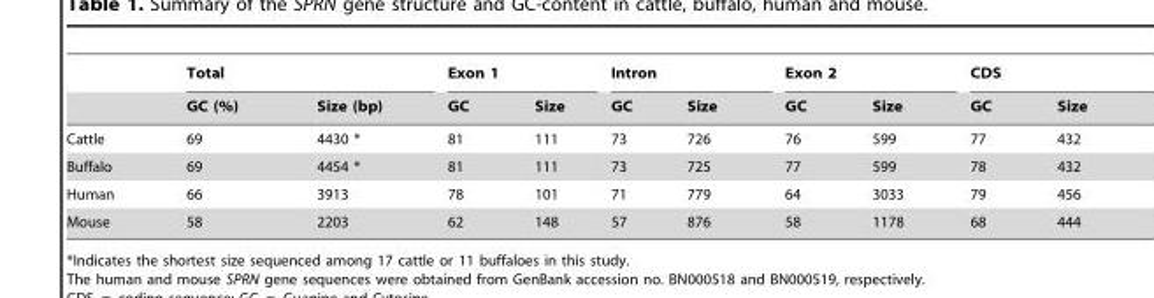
<table><thead><tr><td rowspan="2"></td><td colspan="2">Total</td><td colspan="2">Exon 1</td><td colspan="2">Intron</td><td colspan="2">Exon 2</td><td colspan="2">CDS</td></tr><tr><td>GC (%)</td><td>Size (bp)</td><td>GC</td><td>Size</td><td>GC</td><td>Size</td><td>GC</td><td>Size</td><td>GC</td><td>Size</td></tr></thead><tbody><tr><td>Cattle</td><td>69</td><td>4430 *</td><td>81</td><td>111</td><td>73</td><td>726</td><td>76</td><td>599</td><td>77</td><td>432</td></tr><tr><td>Buffalo</td><td>69</td><td>4454 *</td><td>81</td><td>111</td><td>73</td><td>725</td><td>77</td><td>599</td><td>78</td><td>432</td></tr><tr><td>Human</td><td>66</td><td>3913</td><td>78</td><td>101</td><td>71</td><td>779</td><td>64</td><td>3033</td><td>79</td><td>456</td></tr><tr><td>Mouse</td><td>58</td><td>2203</td><td>62</td><td>148</td><td>57</td><td>876</td><td>58</td><td>1178</td><td>68</td><td>444</td></tr></tbody></table>